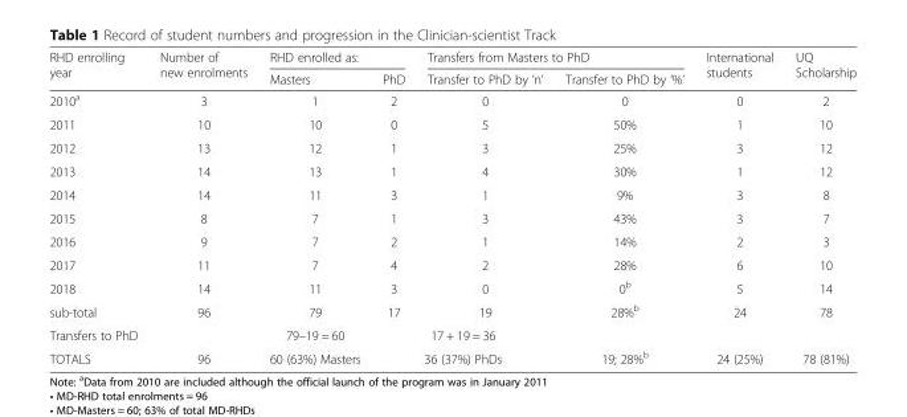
<table><thead><tr><td rowspan="2">RHD enrolling year</td><td rowspan="2">Number of new enrolments</td><td colspan="2">RHD enrolled as:</td><td colspan="2">Transfers from Masters to PhD</td><td rowspan="2">International students</td><td rowspan="2">UQ Scholarship</td></tr><tr><td>Masters</td><td>PhD</td><td>Transfer to PhD by ‘n’</td><td>Transfer to PhD by ‘%’</td></tr></thead><tbody><tr><td>2010<sup>a</sup></td><td>3</td><td>1</td><td>2</td><td>0</td><td>0</td><td>0</td><td>2</td></tr><tr><td>2011</td><td>10</td><td>10</td><td>0</td><td>5</td><td>50%</td><td>1</td><td>10</td></tr><tr><td>2012</td><td>13</td><td>12</td><td>1</td><td>3</td><td>25%</td><td>3</td><td>12</td></tr><tr><td>2013</td><td>14</td><td>13</td><td>1</td><td>4</td><td>30%</td><td>1</td><td>12</td></tr><tr><td>2014</td><td>14</td><td>11</td><td>3</td><td>1</td><td>9%</td><td>3</td><td>8</td></tr><tr><td>2015</td><td>8</td><td>7</td><td>1</td><td>3</td><td>43%</td><td>3</td><td>7</td></tr><tr><td>2016</td><td>9</td><td>7</td><td>2</td><td>1</td><td>14%</td><td>2</td><td>3</td></tr><tr><td>2017</td><td>11</td><td>7</td><td>4</td><td>2</td><td>28%</td><td>6</td><td>10</td></tr><tr><td>2018</td><td>14</td><td>11</td><td>3</td><td>0</td><td>0<sup>b</sup></td><td>5</td><td>14</td></tr><tr><td>sub-total</td><td>96</td><td>79</td><td>17</td><td>19</td><td>28%<sup>b</sup></td><td>24</td><td>78</td></tr><tr><td>Transfers to PhD</td><td></td><td>79–19 = 60</td><td colspan="2">17 + 19 = 36</td><td></td><td></td><td></td></tr><tr><td>TOTALS</td><td>96</td><td>60 (63%) Masters</td><td colspan="2">36 (37%) PhDs</td><td>19; 28%<sup>b</sup></td><td>24 (25%)</td><td>78 (81%)</td></tr></tbody></table>